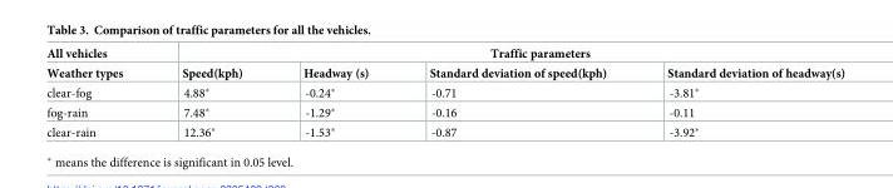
<table><thead><tr><td rowspan="2">All vehicles Weather types</td><td colspan="4">Traffic parameters</td></tr><tr><td>Speed(kph)</td><td>Headway (s)</td><td>Standard deviation of speed(kph)</td><td>Standard deviation of headway(s)</td></tr></thead><tbody><tr><td>clear-fog</td><td>4.88*</td><td>-0.24*</td><td>-0.71</td><td>-3.81*</td></tr><tr><td>fog-rain</td><td>7.48*</td><td>-1.29*</td><td>-0.16</td><td>-0.11</td></tr><tr><td>clear-rain</td><td>12.36*</td><td>-1.53*</td><td>-0.87</td><td>-3.92*</td></tr></tbody></table>